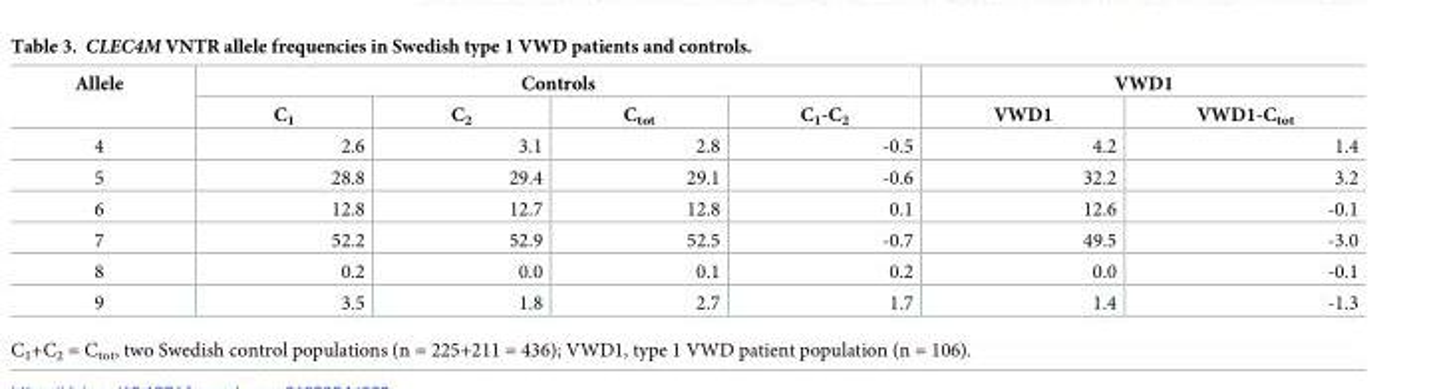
<table><thead><tr><td rowspan="2">Allele</td><td colspan="4">Controls</td><td colspan="2">VWD1</td></tr><tr><td>C<sub>1</sub></td><td>C<sub>2</sub></td><td>C<sub>tot</sub></td><td>C<sub>1</sub>-C<sub>2</sub></td><td>VWD1</td><td>VWD1-C<sub>tot</sub></td></tr></thead><tbody><tr><td>4</td><td>2.6</td><td>3.1</td><td>2.8</td><td>-0.5</td><td>4.2</td><td>1.4</td></tr><tr><td>5</td><td>28.8</td><td>29.4</td><td>29.1</td><td>-0.6</td><td>32.2</td><td>3.2</td></tr><tr><td>6</td><td>12.8</td><td>12.7</td><td>12.8</td><td>0.1</td><td>12.6</td><td>-0.1</td></tr><tr><td>7</td><td>52.2</td><td>52.9</td><td>52.5</td><td>-0.7</td><td>49.5</td><td>-3.0</td></tr><tr><td>8</td><td>0.2</td><td>0.0</td><td>0.1</td><td>0.2</td><td>0.0</td><td>-0.1</td></tr><tr><td>9</td><td>3.5</td><td>1.8</td><td>2.7</td><td>1.7</td><td>1.4</td><td>-1.3</td></tr></tbody></table>